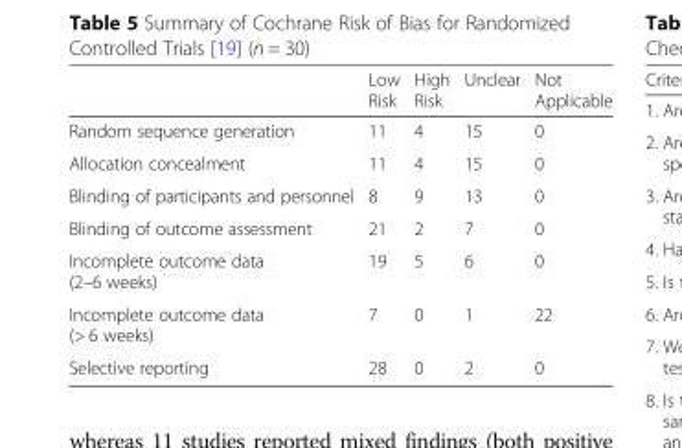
<table><thead><tr><td></td><td>Low Risk</td><td>High Risk</td><td>Unclear</td><td>Not Applicable</td></tr></thead><tbody><tr><td>Random sequence generation</td><td>11</td><td>4</td><td>15</td><td>0</td></tr><tr><td>Allocation concealment</td><td>11</td><td>4</td><td>15</td><td>0</td></tr><tr><td>Blinding of participants and personnel</td><td>8</td><td>9</td><td>13</td><td>0</td></tr><tr><td>Blinding of outcome assessment</td><td>21</td><td>2</td><td>7</td><td>0</td></tr><tr><td>Incomplete outcome data (2–6 weeks)</td><td>19</td><td>5</td><td>6</td><td>0</td></tr><tr><td>Incomplete outcome data (&gt; 6 weeks)</td><td>7</td><td>0</td><td>1</td><td>22</td></tr><tr><td>Selective reporting</td><td>28</td><td>0</td><td>2</td><td>0</td></tr></tbody></table>